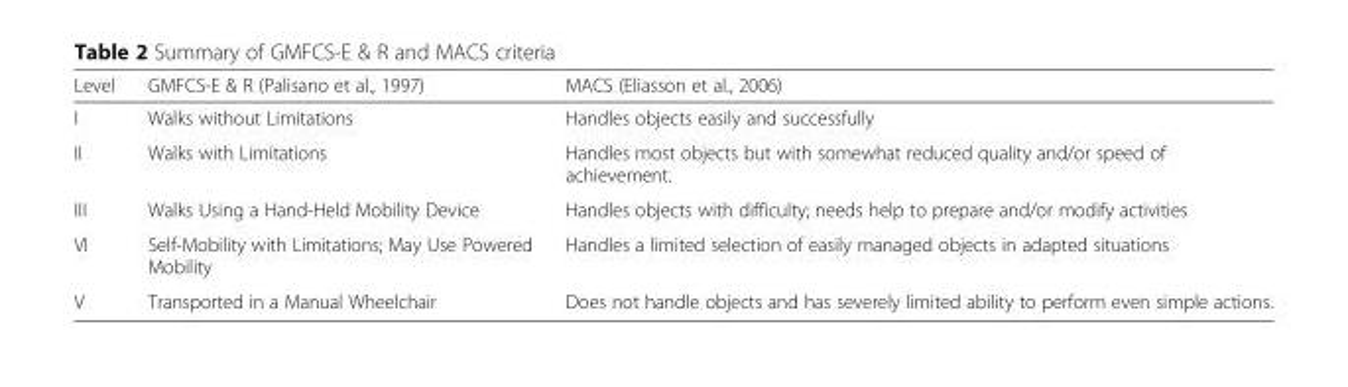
<table><thead><tr><td>Level</td><td>GMFCS-E &amp; R (Palisano et al., 1997)</td><td>MACS (Eliasson et al., 2006)</td></tr></thead><tbody><tr><td>I</td><td>Walks without Limitations</td><td>Handles objects easily and successfully</td></tr><tr><td>II</td><td>Walks with Limitations</td><td>Handles most objects but with somewhat reduced quality and/or speed of achievement.</td></tr><tr><td>III</td><td>Walks Using a Hand-Held Mobility Device</td><td>Handles objects with difficulty; needs help to prepare and/or modify activities</td></tr><tr><td>VI</td><td>Self-Mobility with Limitations; May Use Powered Mobility</td><td>Handles a limited selection of easily managed objects in adapted situations</td></tr><tr><td>V</td><td>Transported in a Manual Wheelchair</td><td>Does not handle objects and has severely limited ability to perform even simple actions.</td></tr></tbody></table>